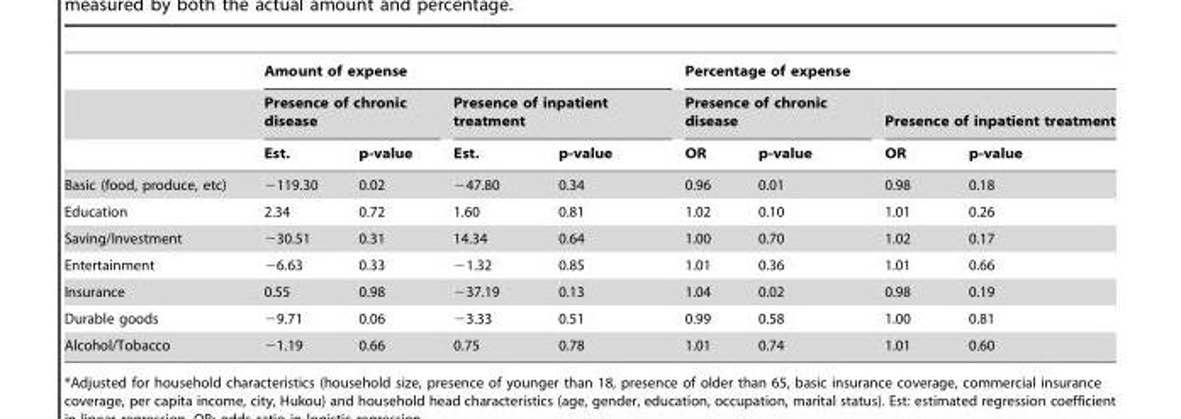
<table><thead><tr><td rowspan="3"></td><td colspan="4">Amount of expense</td><td colspan="4">Percentage of expense</td></tr><tr><td colspan="2">Presence of chronic disease</td><td colspan="2">Presence of inpatient treatment</td><td colspan="2">Presence of chronic disease</td><td colspan="2">Presence of inpatient treatment</td></tr><tr><td>Est.</td><td>p-value</td><td>Est.</td><td>p-value</td><td>OR</td><td>p-value</td><td>OR</td><td>p-value</td></tr></thead><tbody><tr><td>Basic (food, produce, etc)</td><td>−119.30</td><td>0.02</td><td>−47.80</td><td>0.34</td><td>0.96</td><td>0.01</td><td>0.98</td><td>0.18</td></tr><tr><td>Education</td><td>2.34</td><td>0.72</td><td>1.60</td><td>0.81</td><td>1.02</td><td>0.10</td><td>1.01</td><td>0.26</td></tr><tr><td>Saving/Investment</td><td>−30.51</td><td>0.31</td><td>14.34</td><td>0.64</td><td>1.00</td><td>0.70</td><td>1.02</td><td>0.17</td></tr><tr><td>Entertainment</td><td>−6.63</td><td>0.33</td><td>−1.32</td><td>0.85</td><td>1.01</td><td>0.36</td><td>1.01</td><td>0.66</td></tr><tr><td>Insurance</td><td>0.55</td><td>0.98</td><td>−37.19</td><td>0.13</td><td>1.04</td><td>0.02</td><td>0.98</td><td>0.19</td></tr><tr><td>Durable goods</td><td>−9.71</td><td>0.06</td><td>−3.33</td><td>0.51</td><td>0.99</td><td>0.58</td><td>1.00</td><td>0.81</td></tr><tr><td>Alcohol/Tobacco</td><td>−1.19</td><td>0.66</td><td>0.75</td><td>0.78</td><td>1.01</td><td>0.74</td><td>1.01</td><td>0.60</td></tr></tbody></table>